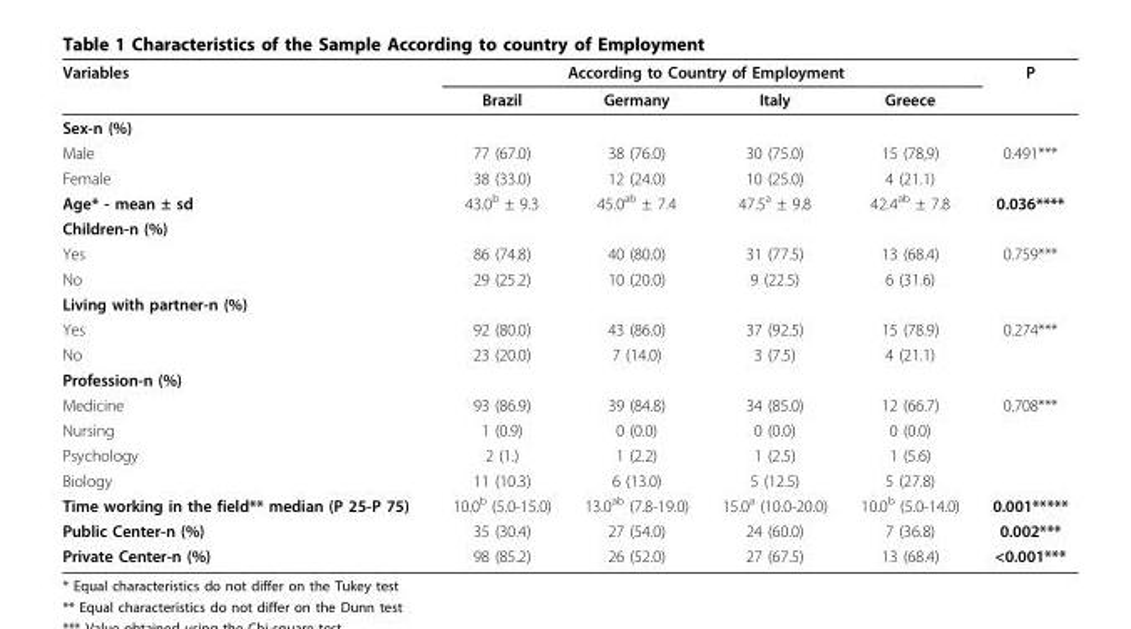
<table><thead><tr><td rowspan="2">Variables</td><td colspan="4">According to Country of Employment</td><td rowspan="2">P</td></tr><tr><td>Brazil</td><td>Germany</td><td>Italy</td><td>Greece</td></tr></thead><tbody><tr><td colspan="6">Sex-n (%)</td></tr><tr><td>Male</td><td>77 (67.0)</td><td>38 (76.0)</td><td>30 (75.0)</td><td>15 (78,9)</td><td>0.491***</td></tr><tr><td>Female</td><td>38 (33.0)</td><td>12 (24.0)</td><td>10 (25.0)</td><td>4 (21.1)</td><td></td></tr><tr><td>Age* - mean ± sd</td><td>43.0<sup>b</sup> ± 9.3</td><td>45.0<sup>ab</sup> ± 7.4</td><td>47.5<sup>a</sup> ± 9.8</td><td>42.4<sup>ab</sup> ± 7.8</td><td>0.036****</td></tr><tr><td colspan="6">Children-n (%)</td></tr><tr><td>Yes</td><td>86 (74.8)</td><td>40 (80.0)</td><td>31 (77.5)</td><td>13 (68.4)</td><td>0.759***</td></tr><tr><td>No</td><td>29 (25.2)</td><td>10 (20.0)</td><td>9 (22.5)</td><td>6 (31.6)</td><td></td></tr><tr><td colspan="6">Living with partner-n (%)</td></tr><tr><td>Yes</td><td>92 (80.0)</td><td>43 (86.0)</td><td>37 (92.5)</td><td>15 (78.9)</td><td>0.274***</td></tr><tr><td>No</td><td>23 (20.0)</td><td>7 (14.0)</td><td>3 (7.5)</td><td>4 (21.1)</td><td></td></tr><tr><td colspan="6">Profession-n (%)</td></tr><tr><td>Medicine</td><td>93 (86.9)</td><td>39 (84.8)</td><td>34 (85.0)</td><td>12 (66.7)</td><td>0.708***</td></tr><tr><td>Nursing</td><td>1 (0.9)</td><td>0 (0.0)</td><td>0 (0.0)</td><td>0 (0.0)</td><td></td></tr><tr><td>Psychology</td><td>2 (1.)</td><td>1 (2.2)</td><td>1 (2.5)</td><td>1 (5.6)</td><td></td></tr><tr><td>Biology</td><td>11 (10.3)</td><td>6 (13.0)</td><td>5 (12.5)</td><td>5 (27.8)</td><td></td></tr><tr><td>Time working in the field** median (P 25-P 75)</td><td>10.0<sup>b</sup> (5.0-15.0)</td><td>13.0<sup>ab</sup> (7.8-19.0)</td><td>15.0<sup>a</sup> (10.0-20.0)</td><td>10.0<sup>b</sup> (5.0-14.0)</td><td>0.001*****</td></tr><tr><td>Public Center-n (%)</td><td>35 (30.4)</td><td>27 (54.0)</td><td>24 (60.0)</td><td>7 (36.8)</td><td>0.002***</td></tr><tr><td>Private Center-n (%)</td><td>98 (85.2)</td><td>26 (52.0)</td><td>27 (67.5)</td><td>13 (68.4)</td><td>&lt;0.001***</td></tr></tbody></table>